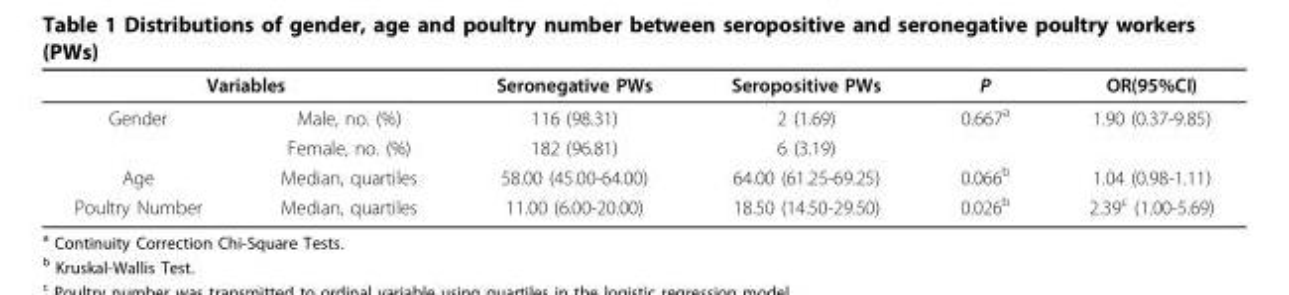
<table><thead><tr><td colspan="2">Variables</td><td rowspan="2">Seronegative PWs 116 (98.31)</td><td rowspan="2">Seropositive PWs 2 (1.69)</td><td rowspan="2">P 0.667<sup>a</sup></td><td rowspan="2">OR(95%CI) 1.90 (0.37-9.85)</td></tr><tr><td>Gender</td><td>Male, no. (%)</td></tr></thead><tbody><tr><td></td><td>Female, no. (%)</td><td>182 (96.81)</td><td>6 (3.19)</td><td></td><td></td></tr><tr><td>Age</td><td>Median, quartiles</td><td>58.00 (45.00-64.00)</td><td>64.00 (61.25-69.25)</td><td>0.066<sup>b</sup></td><td>1.04 (0.98-1.11)</td></tr><tr><td>Poultry Number</td><td>Median, quartiles</td><td>11.00 (6.00-20.00)</td><td>18.50 (14.50-29.50)</td><td>0.026<sup>b</sup></td><td>2.39<sup>c</sup> (1.00-5.69)</td></tr></tbody></table>